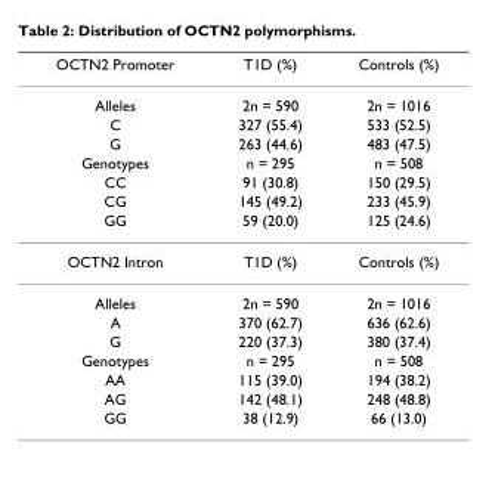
<table><thead><tr><td>OCTN2 Promoter</td><td>T1D (%)</td><td>Controls (%)</td></tr></thead><tbody><tr><td>Alleles</td><td>2n = 590</td><td>2n = 1016</td></tr><tr><td>C</td><td>327 (55.4)</td><td>533 (52.5)</td></tr><tr><td>G</td><td>263 (44.6)</td><td>483 (47.5)</td></tr><tr><td>Genotypes</td><td>n = 295</td><td>n = 508</td></tr><tr><td>CC</td><td>91 (30.8)</td><td>150 (29.5)</td></tr><tr><td>CG</td><td>145 (49.2)</td><td>233 (45.9)</td></tr><tr><td>GG</td><td>59 (20.0)</td><td>125 (24.6)</td></tr><tr><td>OCTN2 Intron</td><td>T1D (%)</td><td>Controls (%)</td></tr><tr><td>Alleles</td><td>2n = 590</td><td>2n = 1016</td></tr><tr><td>A</td><td>370 (62.7)</td><td>636 (62.6)</td></tr><tr><td>G</td><td>220 (37.3)</td><td>380 (37.4)</td></tr><tr><td>Genotypes</td><td>n = 295</td><td>n = 508</td></tr><tr><td>AA</td><td>115 (39.0)</td><td>194 (38.2)</td></tr><tr><td>AG</td><td>142 (48.1)</td><td>248 (48.8)</td></tr><tr><td>GG</td><td>38 (12.9)</td><td>66 (13.0)</td></tr></tbody></table>